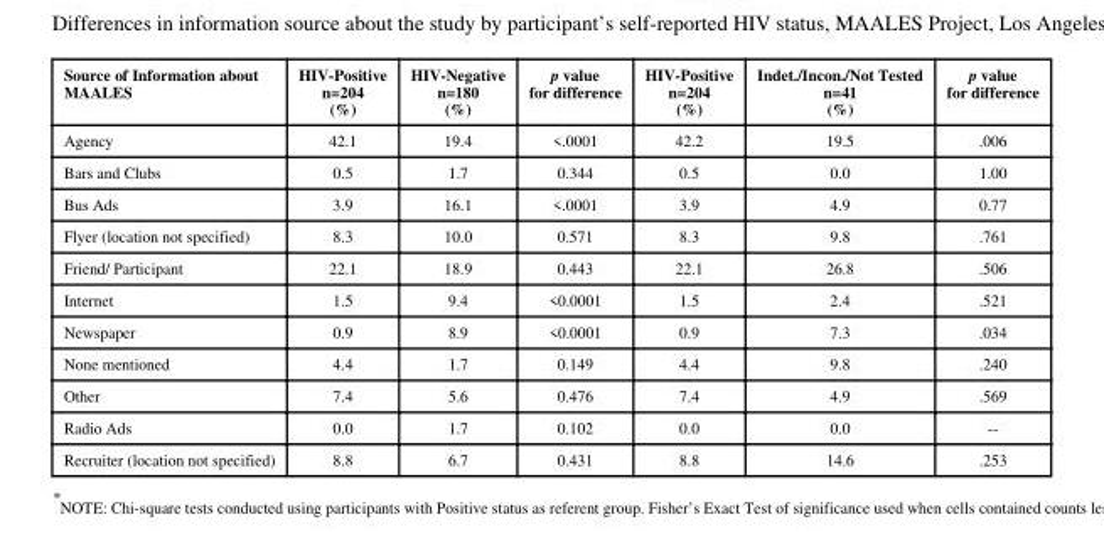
<table><thead><tr><td>Source of Information about MAALES</td><td>HIV-Positive n=204 (%)</td><td>HIV-Negative n=180 (%)</td><td>p value for difference</td><td>HIV-Positive n=204 (%)</td><td>Indet./Incon./Not Tested n=41 (%)</td><td>p value for difference</td></tr></thead><tbody><tr><td>Agency</td><td>42.1</td><td>19.4</td><td>&lt;.0001</td><td>42.2</td><td>19.5</td><td>.006</td></tr><tr><td>Bars and Clubs</td><td>0.5</td><td>1.7</td><td>0.344</td><td>0.5</td><td>0.0</td><td>1.00</td></tr><tr><td>Bus Ads</td><td>3.9</td><td>16.1</td><td>&lt;.0001</td><td>3.9</td><td>4.9</td><td>0.77</td></tr><tr><td>Flyer (location not specified)</td><td>8.3</td><td>10.0</td><td>0.571</td><td>8.3</td><td>9.8</td><td>.761</td></tr><tr><td>Friend/ Participant</td><td>22.1</td><td>18.9</td><td>0.443</td><td>22.1</td><td>26.8</td><td>.506</td></tr><tr><td>Internet</td><td>1.5</td><td>9.4</td><td>&lt;0.0001</td><td>1.5</td><td>2.4</td><td>.521</td></tr><tr><td>Newspaper</td><td>0.9</td><td>8.9</td><td>&lt;0.0001</td><td>0.9</td><td>7.3</td><td>.034</td></tr><tr><td>None mentioned</td><td>4.4</td><td>1.7</td><td>0.149</td><td>4.4</td><td>9.8</td><td>.240</td></tr><tr><td>Other</td><td>7.4</td><td>5.6</td><td>0.476</td><td>7.4</td><td>4.9</td><td>.569</td></tr><tr><td>Radio Ads</td><td>0.0</td><td>1.7</td><td>0.102</td><td>0.0</td><td>0.0</td><td>--</td></tr><tr><td>Recruiter (location not specified)</td><td>8.8</td><td>6.7</td><td>0.431</td><td>8.8</td><td>14.6</td><td>.253</td></tr></tbody></table>